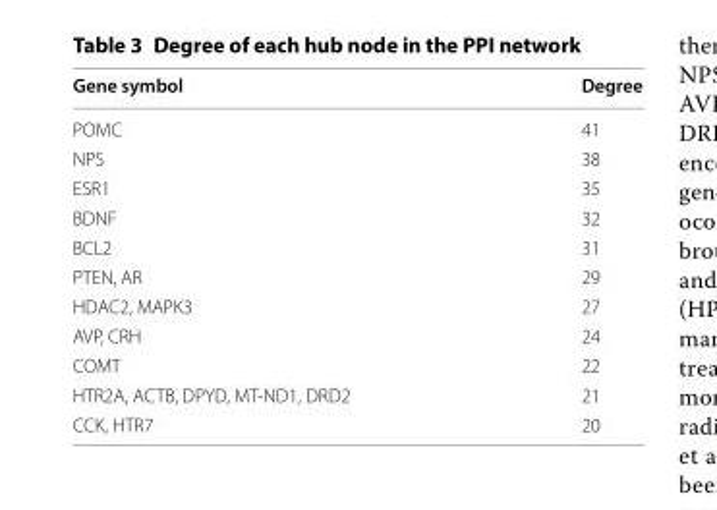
<table><thead><tr><td>Gene symbol</td><td>Degree</td></tr></thead><tbody><tr><td>POMC</td><td>41</td></tr><tr><td>NPS</td><td>38</td></tr><tr><td>ESR1</td><td>35</td></tr><tr><td>BDNF</td><td>32</td></tr><tr><td>BCL2</td><td>31</td></tr><tr><td>PTEN, AR</td><td>29</td></tr><tr><td>HDAC2, MAPK3</td><td>27</td></tr><tr><td>AVP, CRH</td><td>24</td></tr><tr><td>COMT</td><td>22</td></tr><tr><td>HTR2A, ACTB, DPYD, MT-ND1, DRD2</td><td>21</td></tr><tr><td>CCK, HTR7</td><td>20</td></tr></tbody></table>